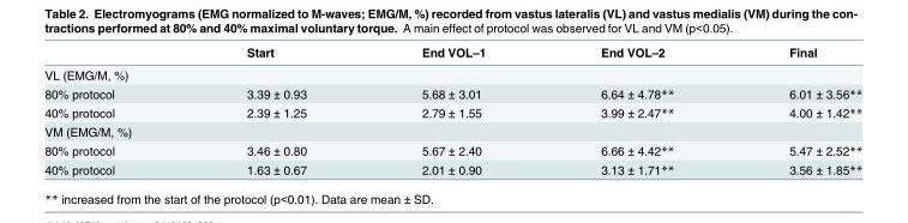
<table><thead><tr><td></td><td>Start</td><td>End VOL–1</td><td>End VOL–2</td><td>Final</td></tr></thead><tbody><tr><td colspan="5">VL (EMG/M, %)</td></tr><tr><td>80% protocol</td><td>3.39 ± 0.93</td><td>5.68 ± 3.01</td><td>6.64 ± 4.78**</td><td>6.01 ± 3.56**</td></tr><tr><td>40% protocol</td><td>2.39 ± 1.25</td><td>2.79 ± 1.55</td><td>3.99 ± 2.47**</td><td>4.00 ± 1.42**</td></tr><tr><td colspan="5">VM (EMG/M, %)</td></tr><tr><td>80% protocol</td><td>3.46 ± 0.80</td><td>5.67 ± 2.40</td><td>6.66 ± 4.42**</td><td>5.47 ± 2.52**</td></tr><tr><td>40% protocol</td><td>1.63 ± 0.67</td><td>2.01 ± 0.90</td><td>3.13 ± 1.71**</td><td>3.56 ± 1.85**</td></tr></tbody></table>